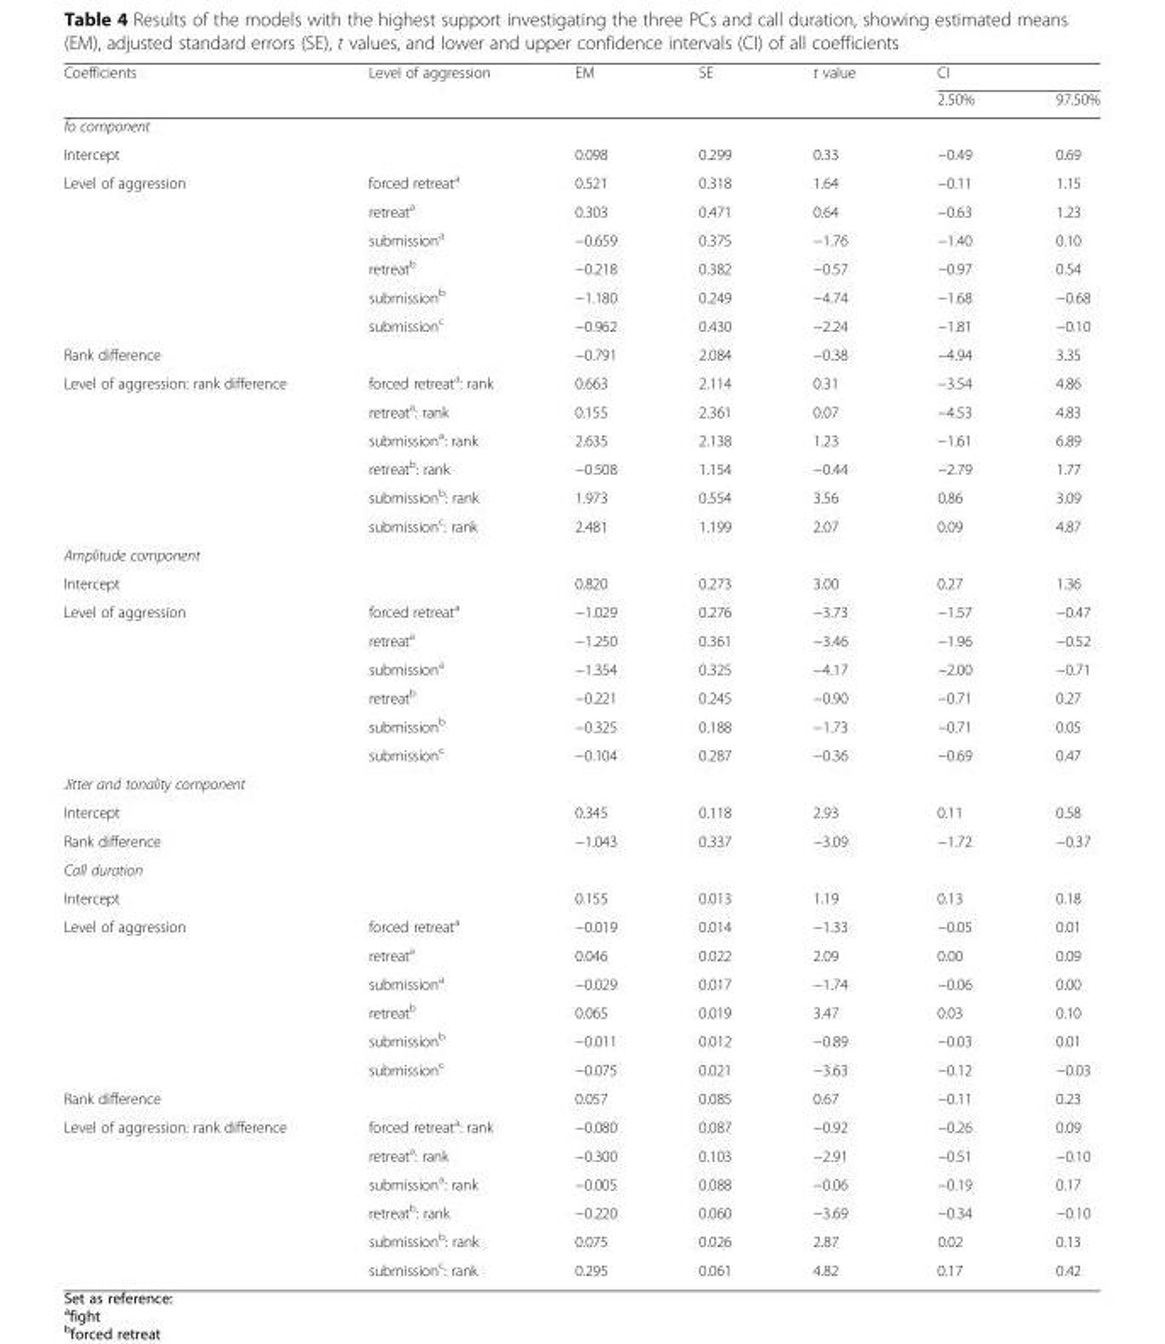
<table><thead><tr><td rowspan="2">Coefficients</td><td rowspan="2">Level of aggression</td><td rowspan="2">EM</td><td rowspan="2">SE</td><td rowspan="2">t value</td><td colspan="2">CI</td></tr><tr><td>2.50%</td><td>97.50%</td></tr></thead><tbody><tr><td colspan="7">fo component</td></tr><tr><td>Intercept</td><td></td><td>0.098</td><td>0.299</td><td>0.33</td><td>−0.49</td><td>0.69</td></tr><tr><td rowspan="6">Level of aggression</td><td>forced retreat<sup>a</sup></td><td>0.521</td><td>0.318</td><td>1.64</td><td>−0.11</td><td>1.15</td></tr><tr><td>retreat<sup>a</sup></td><td>0.303</td><td>0.471</td><td>0.64</td><td>−0.63</td><td>1.23</td></tr><tr><td>submission<sup>a</sup></td><td>−0.659</td><td>0.375</td><td>−1.76</td><td>−1.40</td><td>0.10</td></tr><tr><td>retreat<sup>b</sup></td><td>−0.218</td><td>0.382</td><td>−0.57</td><td>−0.97</td><td>0.54</td></tr><tr><td>submission<sup>b</sup></td><td>−1.180</td><td>0.249</td><td>−4.74</td><td>−1.68</td><td>−0.68</td></tr><tr><td>submission<sup>c</sup></td><td>−0.962</td><td>0.430</td><td>−2.24</td><td>−1.81</td><td>−0.10</td></tr><tr><td>Rank difference</td><td></td><td>−0.791</td><td>2.084</td><td>−0.38</td><td>−4.94</td><td>3.35</td></tr><tr><td rowspan="6">Level of aggression: rank difference</td><td>forced retreat<sup>a</sup>: rank</td><td>0.663</td><td>2.114</td><td>0.31</td><td>−3.54</td><td>4.86</td></tr><tr><td>retreat<sup>a</sup>: rank</td><td>0.155</td><td>2.361</td><td>0.07</td><td>−4.53</td><td>4.83</td></tr><tr><td>submission<sup>a</sup>: rank</td><td>2.635</td><td>2.138</td><td>1.23</td><td>−1.61</td><td>6.89</td></tr><tr><td>retreat<sup>b</sup>: rank</td><td>−0.508</td><td>1.154</td><td>−0.44</td><td>−2.79</td><td>1.77</td></tr><tr><td>submission<sup>b</sup>: rank</td><td>1.973</td><td>0.554</td><td>3.56</td><td>0.86</td><td>3.09</td></tr><tr><td>submission<sup>c</sup>: rank</td><td>2.481</td><td>1.199</td><td>2.07</td><td>0.09</td><td>4.87</td></tr><tr><td colspan="7">Amplitude component</td></tr><tr><td>Intercept</td><td></td><td>0.820</td><td>0.273</td><td>3.00</td><td>0.27</td><td>1.36</td></tr><tr><td rowspan="6">Level of aggression</td><td>forced retreat<sup>a</sup></td><td>−1.029</td><td>0.276</td><td>−3.73</td><td>−1.57</td><td>−0.47</td></tr><tr><td>retreat<sup>a</sup></td><td>−1.250</td><td>0.361</td><td>−3.46</td><td>−1.96</td><td>−0.52</td></tr><tr><td>submission<sup>a</sup></td><td>−1.354</td><td>0.325</td><td>−4.17</td><td>−2.00</td><td>−0.71</td></tr><tr><td>retreat<sup>b</sup></td><td>−0.221</td><td>0.245</td><td>−0.90</td><td>−0.71</td><td>0.27</td></tr><tr><td>submission<sup>b</sup></td><td>−0.325</td><td>0.188</td><td>−1.73</td><td>−0.71</td><td>0.05</td></tr><tr><td>submission<sup>c</sup></td><td>−0.104</td><td>0.287</td><td>−0.36</td><td>−0.69</td><td>0.47</td></tr><tr><td colspan="7">Jitter and tonality component</td></tr><tr><td>Intercept</td><td></td><td>0.345</td><td>0.118</td><td>2.93</td><td>0.11</td><td>0.58</td></tr><tr><td>Rank difference</td><td></td><td>−1.043</td><td>0.337</td><td>−3.09</td><td>−1.72</td><td>−0.37</td></tr><tr><td colspan="7">Call duration</td></tr><tr><td>Intercept</td><td></td><td>0.155</td><td>0.013</td><td>1.19</td><td>0.13</td><td>0.18</td></tr><tr><td rowspan="6">Level of aggression</td><td>forced retreat<sup>a</sup></td><td>−0.019</td><td>0.014</td><td>−1.33</td><td>−0.05</td><td>0.01</td></tr><tr><td>retreat<sup>a</sup></td><td>0.046</td><td>0.022</td><td>2.09</td><td>0.00</td><td>0.09</td></tr><tr><td>submission<sup>a</sup></td><td>−0.029</td><td>0.017</td><td>−1.74</td><td>−0.06</td><td>0.00</td></tr><tr><td>retreat<sup>b</sup></td><td>0.065</td><td>0.019</td><td>3.47</td><td>0.03</td><td>0.10</td></tr><tr><td>submission<sup>b</sup></td><td>−0.011</td><td>0.012</td><td>−0.89</td><td>−0.03</td><td>0.01</td></tr><tr><td>submission<sup>c</sup></td><td>−0.075</td><td>0.021</td><td>−3.63</td><td>−0.12</td><td>−0.03</td></tr><tr><td>Rank difference</td><td></td><td>0.057</td><td>0.085</td><td>0.67</td><td>−0.11</td><td>0.23</td></tr><tr><td rowspan="6">Level of aggression: rank difference</td><td>forced retreat<sup>a</sup>: rank</td><td>−0.080</td><td>0.087</td><td>−0.92</td><td>−0.26</td><td>0.09</td></tr><tr><td>retreat<sup>a</sup>: rank</td><td>−0.300</td><td>0.103</td><td>−2.91</td><td>−0.51</td><td>−0.10</td></tr><tr><td>submission<sup>a</sup>: rank</td><td>−0.005</td><td>0.088</td><td>−0.06</td><td>−0.19</td><td>0.17</td></tr><tr><td>retreat<sup>b</sup>: rank</td><td>−0.220</td><td>0.060</td><td>−3.69</td><td>−0.34</td><td>−0.10</td></tr><tr><td>submission<sup>b</sup>: rank</td><td>0.075</td><td>0.026</td><td>2.87</td><td>0.02</td><td>0.13</td></tr><tr><td>submission<sup>c</sup>: rank</td><td>0.295</td><td>0.061</td><td>4.82</td><td>0.17</td><td>0.42</td></tr></tbody></table>